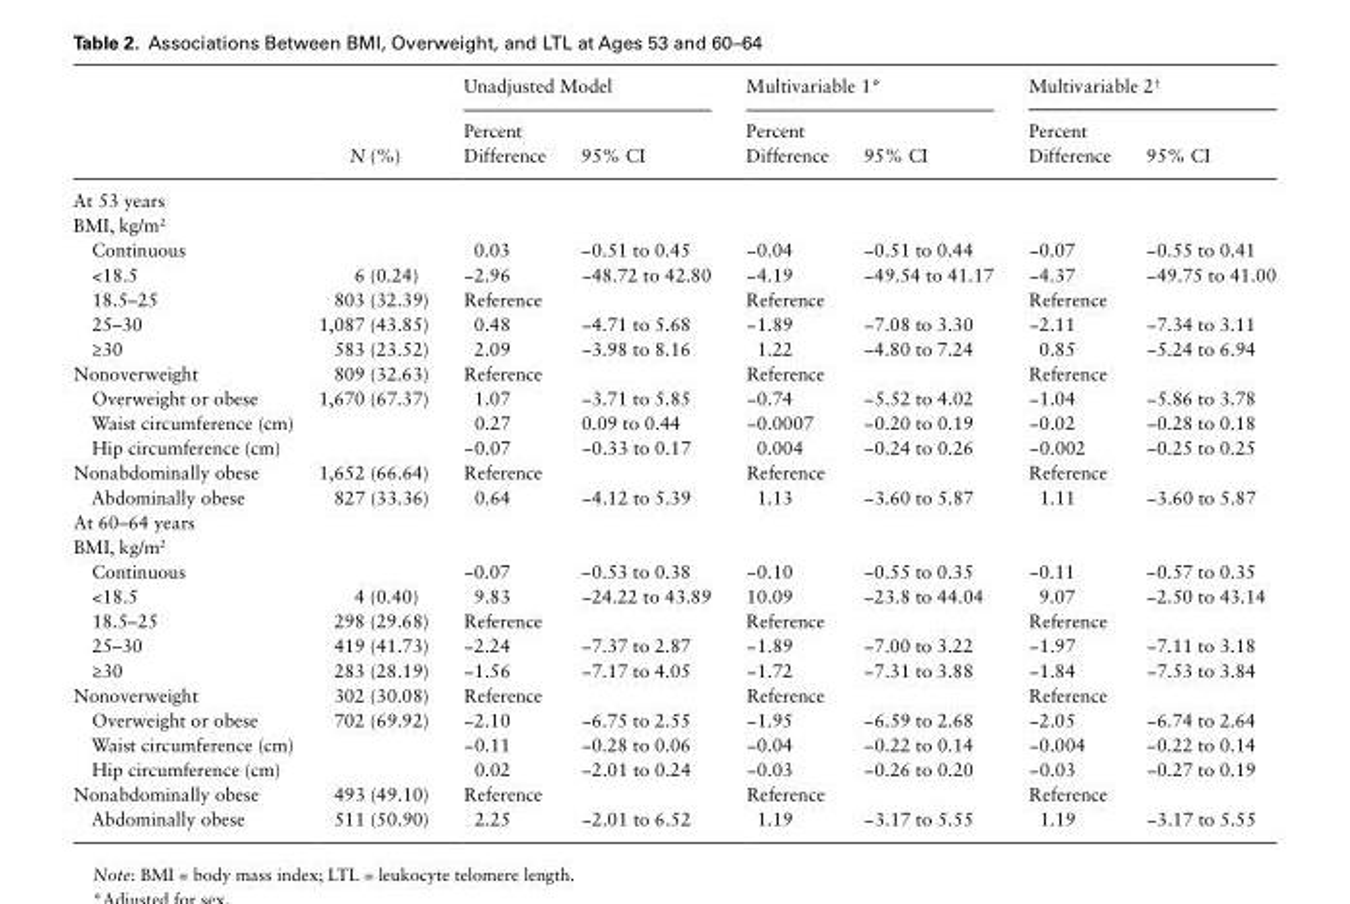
<table><thead><tr><td rowspan="2"></td><td rowspan="2">N (%)</td><td colspan="2">Unadjusted Model</td><td colspan="2">Multivariable 1*</td><td colspan="2">Multivariable 2<sup>†</sup></td></tr><tr><td>Percent Difference</td><td>95% CI</td><td>Percent Difference</td><td>95% CI</td><td>Percent Difference</td><td>95% CI</td></tr></thead><tbody><tr><td colspan="8">At 53 years</td></tr><tr><td colspan="8">BMI, kg/m<sup>2</sup></td></tr><tr><td>Continuous</td><td></td><td>0.03</td><td>−0.51 to 0.45</td><td>−0.04</td><td>−0.51 to 0.44</td><td>−0.07</td><td>−0.55 to 0.41</td></tr><tr><td>&lt;18.5</td><td>6 (0.24)</td><td>−2.96</td><td>−48.72 to 42.80</td><td>−4.19</td><td>−49.54 to 41.17</td><td>−4.37</td><td>−49.75 to 41.00</td></tr><tr><td>18.5–25</td><td>803 (32.39)</td><td>Reference</td><td></td><td>Reference</td><td></td><td>Reference</td><td></td></tr><tr><td>25–30</td><td>1,087 (43.85)</td><td>0.48</td><td>−4.71 to 5.68</td><td>−1.89</td><td>−7.08 to 3.30</td><td>−2.11</td><td>−7.34 to 3.11</td></tr><tr><td>≥30</td><td>583 (23.52)</td><td>2.09</td><td>−3.98 to 8.16</td><td>1.22</td><td>−4.80 to 7.24</td><td>0.85</td><td>−5.24 to 6.94</td></tr><tr><td>Nonoverweight</td><td>809 (32.63)</td><td>Reference</td><td></td><td>Reference</td><td></td><td>Reference</td><td></td></tr><tr><td>Overweight or obese</td><td>1,670 (67.37)</td><td>1.07</td><td>−3.71 to 5.85</td><td>−0.74</td><td>−5.52 to 4.02</td><td>−1.04</td><td>−5.86 to 3.78</td></tr><tr><td>Waist circumference (cm)</td><td></td><td>0.27</td><td>0.09 to 0.44</td><td>−0.0007</td><td>−0.20 to 0.19</td><td>−0.02</td><td>−0.28 to 0.18</td></tr><tr><td>Hip circumference (cm)</td><td></td><td>−0.07</td><td>−0.33 to 0.17</td><td>0.004</td><td>−0.24 to 0.26</td><td>−0.002</td><td>−0.25 to 0.25</td></tr><tr><td>Nonabdominally obese</td><td>1,652 (66.64)</td><td>Reference</td><td></td><td>Reference</td><td></td><td>Reference</td><td></td></tr><tr><td>Abdominally obese</td><td>827 (33.36)</td><td>0.64</td><td>−4.12 to 5.39</td><td>1.13</td><td>−3.60 to 5.87</td><td>1.11</td><td>−3.60 to 5.87</td></tr><tr><td colspan="8">At 60–64 years</td></tr><tr><td colspan="8">BMI, kg/m<sup>2</sup></td></tr><tr><td>Continuous</td><td></td><td>−0.07</td><td>−0.53 to 0.38</td><td>−0.10</td><td>−0.55 to 0.35</td><td>−0.11</td><td>−0.57 to 0.35</td></tr><tr><td>&lt;18.5</td><td>4 (0.40)</td><td>9.83</td><td>−24.22 to 43.89</td><td>10.09</td><td>−23.8 to 44.04</td><td>9.07</td><td>−2.50 to 43.14</td></tr><tr><td>18.5–25</td><td>298 (29.68)</td><td>Reference</td><td></td><td>Reference</td><td></td><td>Reference</td><td></td></tr><tr><td>25–30</td><td>419 (41.73)</td><td>−2.24</td><td>−7.37 to 2.87</td><td>−1.89</td><td>−7.00 to 3.22</td><td>−1.97</td><td>−7.11 to 3.18</td></tr><tr><td>≥30</td><td>283 (28.19)</td><td>−1.56</td><td>−7.17 to 4.05</td><td>−1.72</td><td>−7.31 to 3.88</td><td>−1.84</td><td>−7.53 to 3.84</td></tr><tr><td>Nonoverweight</td><td>302 (30.08)</td><td>Reference</td><td></td><td>Reference</td><td></td><td>Reference</td><td></td></tr><tr><td>Overweight or obese</td><td>702 (69.92)</td><td>−2.10</td><td>−6.75 to 2.55</td><td>−1.95</td><td>−6.59 to 2.68</td><td>−2.05</td><td>−6.74 to 2.64</td></tr><tr><td>Waist circumference (cm)</td><td></td><td>−0.11</td><td>−0.28 to 0.06</td><td>−0.04</td><td>−0.22 to 0.14</td><td>−0.004</td><td>−0.22 to 0.14</td></tr><tr><td>Hip circumference (cm)</td><td></td><td>0.02</td><td>−2.01 to 0.24</td><td>−0.03</td><td>−0.26 to 0.20</td><td>−0.03</td><td>−0.27 to 0.19</td></tr><tr><td>Nonabdominally obese</td><td>493 (49.10)</td><td>Reference</td><td></td><td>Reference</td><td></td><td>Reference</td><td></td></tr><tr><td>Abdominally obese</td><td>511 (50.90)</td><td>2.25</td><td>−2.01 to 6.52</td><td>1.19</td><td>−3.17 to 5.55</td><td>1.19</td><td>−3.17 to 5.55</td></tr></tbody></table>